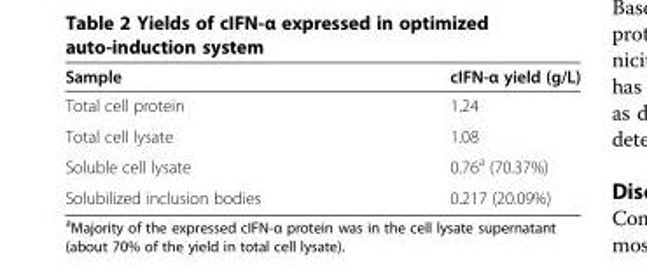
<table><thead><tr><td>Sample</td><td>cIFN-α yield (g/L)</td></tr></thead><tbody><tr><td>Total cell protein</td><td>1.24</td></tr><tr><td>Total cell lysate</td><td>1.08</td></tr><tr><td>Soluble cell lysate</td><td>0.76<sup>a</sup> (70.37%)</td></tr><tr><td>Solubilized inclusion bodies</td><td>0.217 (20.09%)</td></tr></tbody></table>